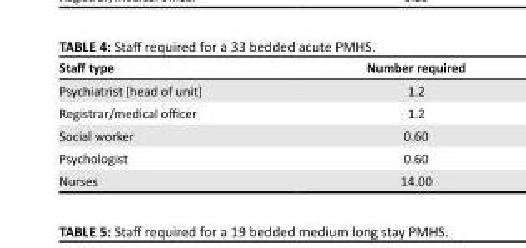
<table><thead><tr><td>Staff type</td><td>Number required</td></tr></thead><tbody><tr><td>Psychiatrist [head of unit]</td><td>1.2</td></tr><tr><td>Registrar/medical officer</td><td>1.2</td></tr><tr><td>Social worker</td><td>0.60</td></tr><tr><td>Psychologist</td><td>0.60</td></tr><tr><td>Nurses</td><td>14.00</td></tr></tbody></table>